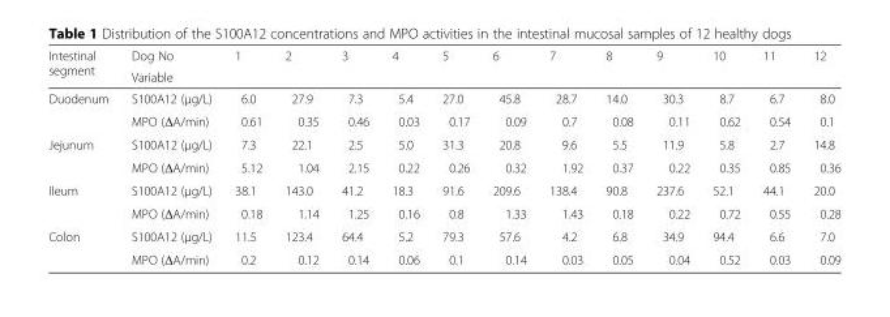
<table><thead><tr><td rowspan="2">Intestinal segment</td><td rowspan="2">Dog No Variable</td><td rowspan="2">1</td><td rowspan="2">2</td><td rowspan="2">3</td><td rowspan="2">4</td><td rowspan="2">5</td><td rowspan="2">6</td><td rowspan="2">7</td><td rowspan="2">8</td><td rowspan="2">9</td><td rowspan="2">10</td><td rowspan="2">11</td><td rowspan="2">12</td></tr><tr></tr></thead><tbody><tr><td rowspan="2">Duodenum</td><td>S100A12 (μg/L)</td><td>6.0</td><td>27.9</td><td>7.3</td><td>5.4</td><td>27.0</td><td>45.8</td><td>28.7</td><td>14.0</td><td>30.3</td><td>8.7</td><td>6.7</td><td>8.0</td></tr><tr><td>MPO (ΔA/min)</td><td>0.61</td><td>0.35</td><td>0.46</td><td>0.03</td><td>0.17</td><td>0.09</td><td>0.7</td><td>0.08</td><td>0.11</td><td>0.62</td><td>0.54</td><td>0.1</td></tr><tr><td rowspan="2">Jejunum</td><td>S100A12 (μg/L)</td><td>7.3</td><td>22.1</td><td>2.5</td><td>5.0</td><td>31.3</td><td>20.8</td><td>9.6</td><td>5.5</td><td>11.9</td><td>5.8</td><td>2.7</td><td>14.8</td></tr><tr><td>MPO (ΔA/min)</td><td>5.12</td><td>1.04</td><td>2.15</td><td>0.22</td><td>0.26</td><td>0.32</td><td>1.92</td><td>0.37</td><td>0.22</td><td>0.35</td><td>0.85</td><td>0.36</td></tr><tr><td rowspan="2">Ileum</td><td>S100A12 (μg/L)</td><td>38.1</td><td>143.0</td><td>41.2</td><td>18.3</td><td>91.6</td><td>209.6</td><td>138.4</td><td>90.8</td><td>237.6</td><td>52.1</td><td>44.1</td><td>20.0</td></tr><tr><td>MPO (ΔA/min)</td><td>0.18</td><td>1.14</td><td>1.25</td><td>0.16</td><td>0.8</td><td>1.33</td><td>1.43</td><td>0.18</td><td>0.22</td><td>0.72</td><td>0.55</td><td>0.28</td></tr><tr><td rowspan="2">Colon</td><td>S100A12 (μg/L)</td><td>11.5</td><td>123.4</td><td>64.4</td><td>5.2</td><td>79.3</td><td>57.6</td><td>4.2</td><td>6.8</td><td>34.9</td><td>94.4</td><td>6.6</td><td>7.0</td></tr><tr><td>MPO (ΔA/min)</td><td>0.2</td><td>0.12</td><td>0.14</td><td>0.06</td><td>0.1</td><td>0.14</td><td>0.03</td><td>0.05</td><td>0.04</td><td>0.52</td><td>0.03</td><td>0.09</td></tr></tbody></table>